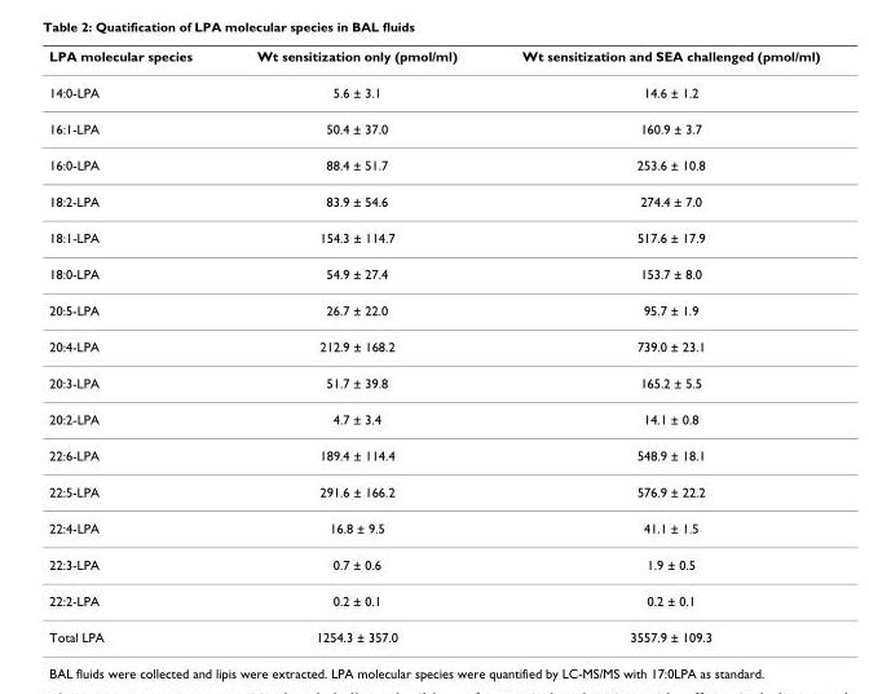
<table><thead><tr><td>LPA molecular species</td><td>Wt sensitization only (pmol/ml)</td><td>Wt sensitization and SEA challenged (pmol/ml)</td></tr></thead><tbody><tr><td>14:0-LPA</td><td>5.6 ± 3.1</td><td>14.6 ± 1.2</td></tr><tr><td>16:1-LPA</td><td>50.4 ± 37.0</td><td>160.9 ± 3.7</td></tr><tr><td>16:0-LPA</td><td>88.4 ± 51.7</td><td>253.6 ± 10.8</td></tr><tr><td>18:2-LPA</td><td>83.9 ± 54.6</td><td>274.4 ± 7.0</td></tr><tr><td>18:1-LPA</td><td>154.3 ± 114.7</td><td>517.6 ± 17.9</td></tr><tr><td>18:0-LPA</td><td>54.9 ± 27.4</td><td>153.7 ± 8.0</td></tr><tr><td>20:5-LPA</td><td>26.7 ± 22.0</td><td>95.7 ± 1.9</td></tr><tr><td>20:4-LPA</td><td>212.9 ± 168.2</td><td>739.0 ± 23.1</td></tr><tr><td>20:3-LPA</td><td>51.7 ± 39.8</td><td>165.2 ± 5.5</td></tr><tr><td>20:2-LPA</td><td>4.7 ± 3.4</td><td>14.1 ± 0.8</td></tr><tr><td>22:6-LPA</td><td>189.4 ± 114.4</td><td>548.9 ± 18.1</td></tr><tr><td>22:5-LPA</td><td>291.6 ± 166.2</td><td>576.9 ± 22.2</td></tr><tr><td>22:4-LPA</td><td>16.8 ± 9.5</td><td>41.1 ± 1.5</td></tr><tr><td>22:3-LPA</td><td>0.7 ± 0.6</td><td>1.9 ± 0.5</td></tr><tr><td>22:2-LPA</td><td>0.2 ± 0.1</td><td>0.2 ± 0.1</td></tr><tr><td>Total LPA</td><td>1254.3 ± 357.0</td><td>3557.9 ± 109.3</td></tr></tbody></table>